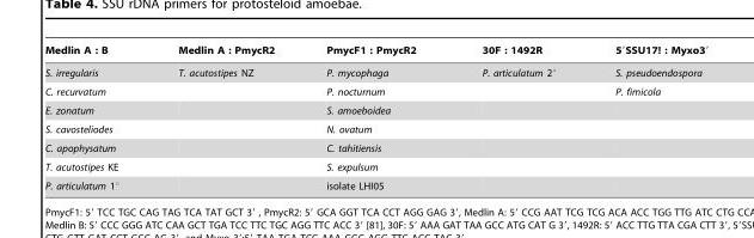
<table><thead><tr><td>Medlin A : B</td><td>Medlin A : PmycR2</td><td>PmycF1 : PmycR2</td><td>30F : 1492R</td><td>5′SSU17! : Myxo3′</td></tr></thead><tbody><tr><td>S. irregularis</td><td>T. acutostipes NZ</td><td>P. mycophaga</td><td>P. articulatum 2°</td><td>S. pseudoendospora</td></tr><tr><td>C. recurvatum</td><td></td><td>P. nocturnum</td><td></td><td>P. fimicola</td></tr><tr><td>E. zonatum</td><td></td><td>S. amoeboidea</td><td></td><td></td></tr><tr><td>S. cavosteliodes</td><td></td><td>N. ovatum</td><td></td><td></td></tr><tr><td>C. apophysatum</td><td></td><td>C. tahitiensis</td><td></td><td></td></tr><tr><td>T. acutostipes KE</td><td></td><td>S. expulsum</td><td></td><td></td></tr><tr><td>P. articulatum 1°</td><td></td><td>isolate LHI05</td><td></td><td></td></tr></tbody></table>